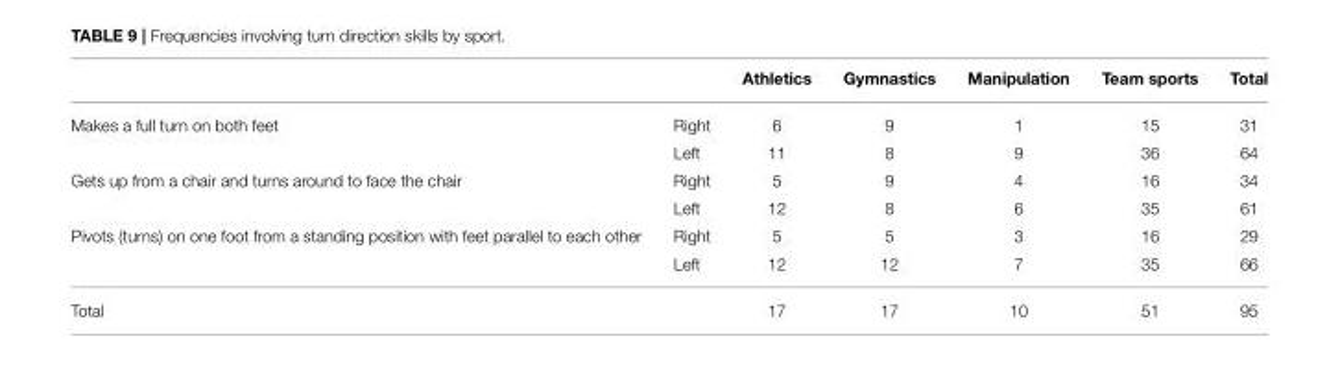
<table><thead><tr><td></td><td></td><td>Athletics</td><td>Gymnastics</td><td>Manipulation</td><td>Team sports</td><td>Total</td></tr></thead><tbody><tr><td rowspan="2">Makes a full turn on both feet</td><td>Right</td><td>6</td><td>9</td><td>1</td><td>15</td><td>31</td></tr><tr><td>Left</td><td>11</td><td>8</td><td>9</td><td>36</td><td>64</td></tr><tr><td rowspan="2">Gets up from a chair and turns around to face the chair</td><td>Right</td><td>5</td><td>9</td><td>4</td><td>16</td><td>34</td></tr><tr><td>Left</td><td>12</td><td>8</td><td>6</td><td>35</td><td>61</td></tr><tr><td rowspan="2">Pivots (turns) on one foot from a standing position with feet parallel to each other</td><td>Right</td><td>5</td><td>5</td><td>3</td><td>16</td><td>29</td></tr><tr><td>Left</td><td>12</td><td>12</td><td>7</td><td>35</td><td>66</td></tr><tr><td>Total</td><td></td><td>17</td><td>17</td><td>10</td><td>51</td><td>95</td></tr></tbody></table>